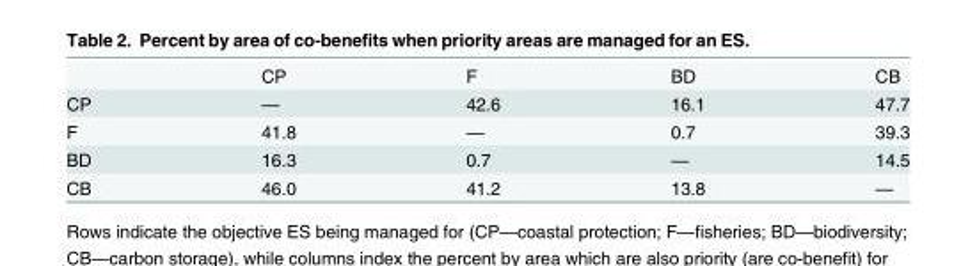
<table><thead><tr><td></td><td>CP</td><td>F</td><td>BD</td><td>CB</td></tr></thead><tbody><tr><td>CP</td><td>—</td><td>42.6</td><td>16.1</td><td>47.7</td></tr><tr><td>F</td><td>41.8</td><td>—</td><td>0.7</td><td>39.3</td></tr><tr><td>BD</td><td>16.3</td><td>0.7</td><td>—</td><td>14.5</td></tr><tr><td>CB</td><td>46.0</td><td>41.2</td><td>13.8</td><td>—</td></tr></tbody></table>